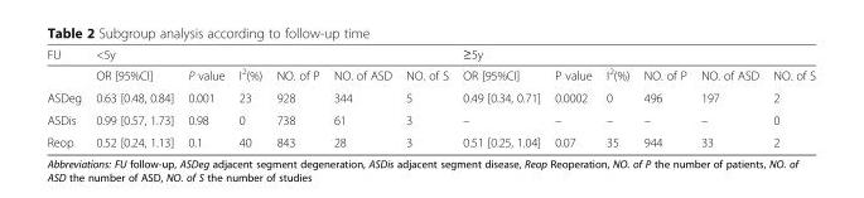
<table><thead><tr><td rowspan="2">FU</td><td colspan="6">&lt;5y</td><td colspan="6">≥5y</td></tr><tr><td>OR [95%CI]</td><td>P value</td><td>I<sup>2</sup>(%)</td><td>NO. of P</td><td>NO. of ASD</td><td>NO. of S</td><td>OR [95%CI]</td><td>P value</td><td>I<sup>2</sup>(%)</td><td>NO. of P</td><td>NO. of ASD</td><td>NO. of S</td></tr></thead><tbody><tr><td>ASDeg</td><td>0.63 [0.48, 0.84]</td><td>0.001</td><td>23</td><td>928</td><td>344</td><td>5</td><td>0.49 [0.34, 0.71]</td><td>0.0002</td><td>0</td><td>496</td><td>197</td><td>2</td></tr><tr><td>ASDis</td><td>0.99 [0.57, 1.73]</td><td>0.98</td><td>0</td><td>738</td><td>61</td><td>3</td><td>–</td><td>–</td><td>–</td><td>–</td><td>–</td><td>0</td></tr><tr><td>Reop</td><td>0.52 [0.24, 1.13]</td><td>0.1</td><td>40</td><td>843</td><td>28</td><td>3</td><td>0.51 [0.25, 1.04]</td><td>0.07</td><td>35</td><td>944</td><td>33</td><td>2</td></tr></tbody></table>